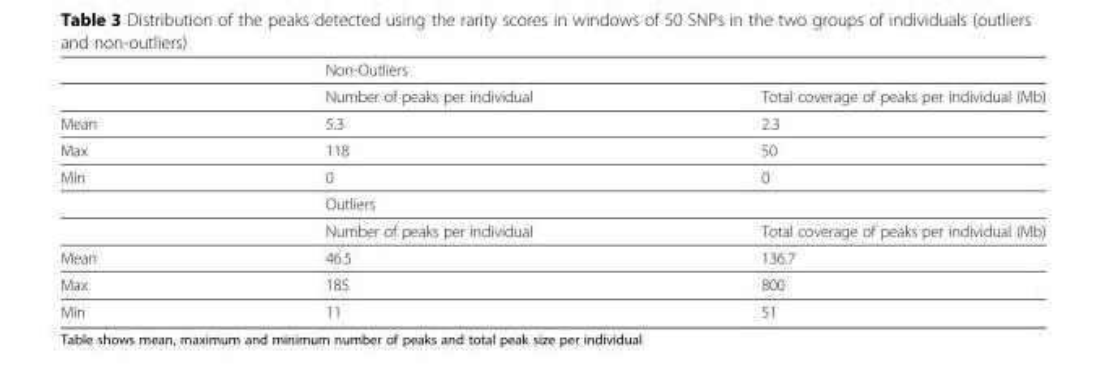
<table><thead><tr><td rowspan="2"></td><td colspan="2">Non-Outliers</td></tr><tr><td>Number of peaks per individual</td><td>Total coverage of peaks per individual (Mb)</td></tr></thead><tbody><tr><td>Mean</td><td>5.3</td><td>2.3</td></tr><tr><td>Max</td><td>118</td><td>50</td></tr><tr><td rowspan="3">Min</td><td>0</td><td>0</td></tr><tr><td colspan="2">Outliers</td></tr><tr><td>Number of peaks per individual</td><td>Total coverage of peaks per individual (Mb)</td></tr><tr><td>Mean</td><td>46.5</td><td>136.7</td></tr><tr><td>Max</td><td>185</td><td>800</td></tr><tr><td>Min</td><td>11</td><td>51</td></tr></tbody></table>